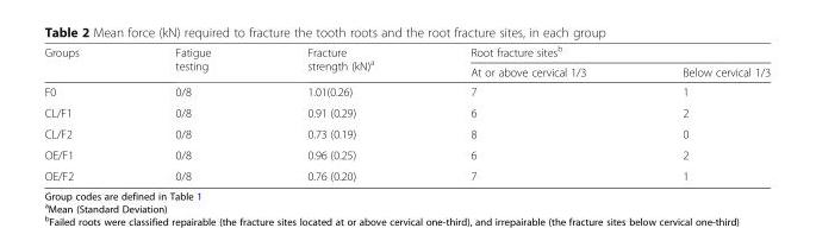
<table><thead><tr><td rowspan="2">Groups</td><td rowspan="2">Fatigue testing</td><td rowspan="2">Fracture strength (kN)<sup>a</sup></td><td colspan="2">Root fracture sites<sup>b</sup></td></tr><tr><td>At or above cervical 1/3</td><td>Below cervical 1/3</td></tr></thead><tbody><tr><td>F0</td><td>0/8</td><td>1.01(0.26)</td><td>7</td><td>1</td></tr><tr><td>CL/F1</td><td>0/8</td><td>0.91 (0.29)</td><td>6</td><td>2</td></tr><tr><td>CL/F2</td><td>0/8</td><td>0.73 (0.19)</td><td>8</td><td>0</td></tr><tr><td>OE/F1</td><td>0/8</td><td>0.96 (0.25)</td><td>6</td><td>2</td></tr><tr><td>OE/F2</td><td>0/8</td><td>0.76 (0.20)</td><td>7</td><td>1</td></tr></tbody></table>